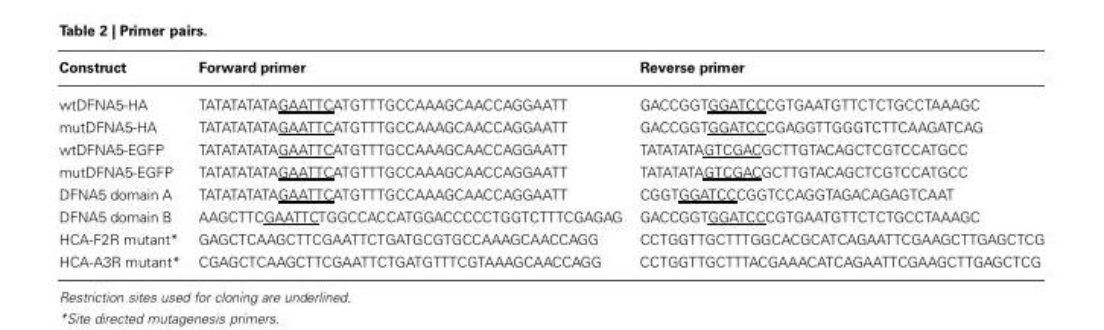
<table><thead><tr><td>Construct</td><td>Forward primer</td><td>Reverse primer</td></tr></thead><tbody><tr><td>wtDFNA5-HA</td><td>TATATATATAGAATTCATGTTTGCCAAAGCAACCAGGAATT</td><td>GACCGGTGGATCCCGTGAATGTTCTCTGCCTAAAGC</td></tr><tr><td>mutDFNA5-HA</td><td>TATATATATAGAATTCATGTTTGCCAAAGCAACCAGGAATT</td><td>GACCGGTGGATCCCGAGGTTGGGTCTTCAAGATCAG</td></tr><tr><td>wtDFNA5-EGFP</td><td>TATATATATAGAATTCATGTTTGCCAAAGCAACCAGGAATT</td><td>TATATATAGTCGACGCTTGTACAGCTCGTCCATGCC</td></tr><tr><td>mutDFNA5-EGFP</td><td>TATATATATAGAATTCATGTTTGCCAAAGCAACCAGGAATT</td><td>TATATATAGTCGACGCTTGTACAGCTCGTCCATGCC</td></tr><tr><td>DFNA5 domain A</td><td>TATATATATAGAATTCATGTTTGCCAAAGCAACCAGGAATT</td><td>CGGTGGATCCCGGTCCAGGTAGACAGAGTCAAT</td></tr><tr><td>DFNA5 domain B</td><td>AAGCTTCGAATTCTGGCCACCATGGACCCCCTGGTCTTTCGAGAG</td><td>GACCGGTGGATCCCGTGAATGTTCTCTGCCTAAAGC</td></tr><tr><td>HCA-F2R mutant*</td><td>GAGCTCAAGCTTCGAATTCTGATGCGTGCCAAAGCAACCAGG</td><td>CCTGGTTGCTTTGGCACGCATCAGAATTCGAAGCTTGAGCTCG</td></tr><tr><td>HCA-A3R mutant*</td><td>CGAGCTCAAGCTTCGAATTCTGATGTTTCGTAAAGCAACCAGG</td><td>CCTGGTTGCTTTACGAAACATCAGAATTCGAAGCTTGAGCTCG</td></tr></tbody></table>